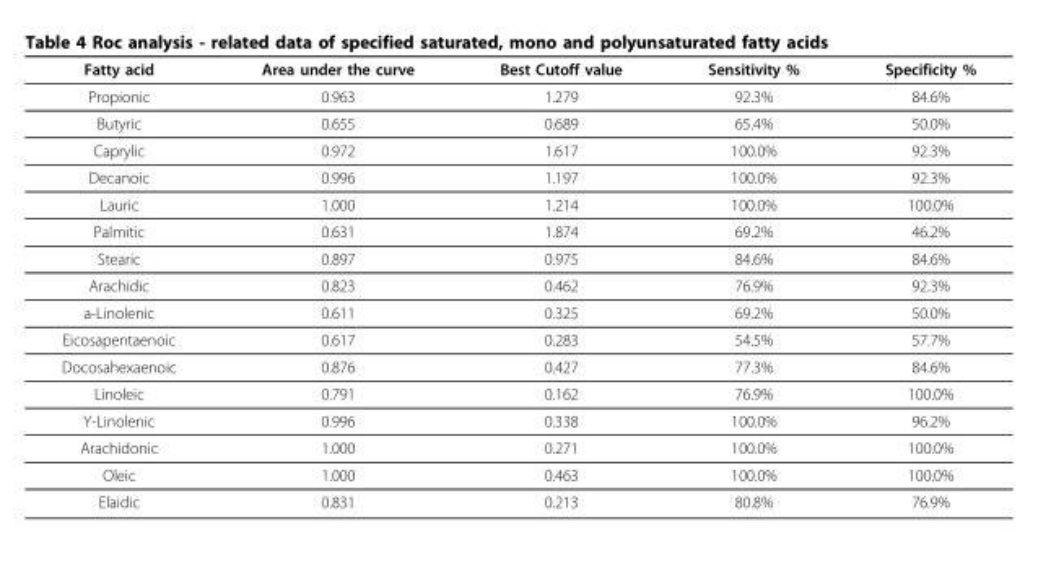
<table><thead><tr><td>Fatty acid</td><td>Area under the curve</td><td>Best Cutoff value</td><td>Sensitivity %</td><td>Specificity %</td></tr></thead><tbody><tr><td>Propionic</td><td>0.963</td><td>1.279</td><td>92.3%</td><td>84.6%</td></tr><tr><td>Butyric</td><td>0.655</td><td>0.689</td><td>65.4%</td><td>50.0%</td></tr><tr><td>Caprylic</td><td>0.972</td><td>1.617</td><td>100.0%</td><td>92.3%</td></tr><tr><td>Decanoic</td><td>0.996</td><td>1.197</td><td>100.0%</td><td>92.3%</td></tr><tr><td>Lauric</td><td>1.000</td><td>1.214</td><td>100.0%</td><td>100.0%</td></tr><tr><td>Palmitic</td><td>0.631</td><td>1.874</td><td>69.2%</td><td>46.2%</td></tr><tr><td>Stearic</td><td>0.897</td><td>0.975</td><td>84.6%</td><td>84.6%</td></tr><tr><td>Arachidic</td><td>0.823</td><td>0.462</td><td>76.9%</td><td>92.3%</td></tr><tr><td>a-Linolenic</td><td>0.611</td><td>0.325</td><td>69.2%</td><td>50.0%</td></tr><tr><td>Eicosapentaenoic</td><td>0.617</td><td>0.283</td><td>54.5%</td><td>57.7%</td></tr><tr><td>Docosahexaenoic</td><td>0.876</td><td>0.427</td><td>77.3%</td><td>84.6%</td></tr><tr><td>Linoleic</td><td>0.791</td><td>0.162</td><td>76.9%</td><td>100.0%</td></tr><tr><td>Y-Linolenic</td><td>0.996</td><td>0.338</td><td>100.0%</td><td>96.2%</td></tr><tr><td>Arachidonic</td><td>1.000</td><td>0.271</td><td>100.0%</td><td>100.0%</td></tr><tr><td>Oleic</td><td>1.000</td><td>0.463</td><td>100.0%</td><td>100.0%</td></tr><tr><td>Elaidic</td><td>0.831</td><td>0.213</td><td>80.8%</td><td>76.9%</td></tr></tbody></table>